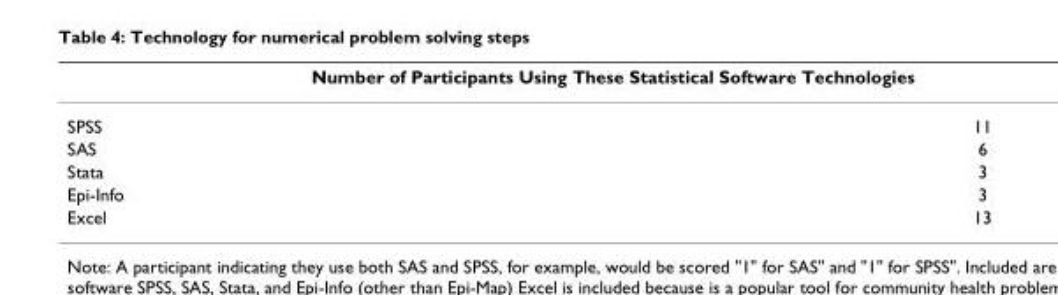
<table><thead><tr><td colspan="2">Number of Participants Using These Statistical Software Technologies</td></tr><tr><td>SPSS</td><td>11</td></tr></thead><tbody><tr><td>SAS</td><td>6</td></tr><tr><td>Stata</td><td>3</td></tr><tr><td>Epi-Info</td><td>3</td></tr><tr><td>Excel</td><td>13</td></tr></tbody></table>